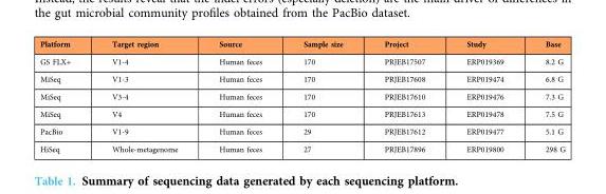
<table><thead><tr><td>Platform</td><td>Target region</td><td>Source</td><td>Sample size</td><td>Project</td><td>Study</td><td>Base</td></tr></thead><tbody><tr><td>GS FLX+</td><td>V1-4</td><td>Human feces</td><td>170</td><td>PRJEB17507</td><td>ERP019369</td><td>8.2 G</td></tr><tr><td>MiSeq</td><td>V1-3</td><td>Human feces</td><td>170</td><td>PRJEB17608</td><td>ERP019474</td><td>6.8 G</td></tr><tr><td>MiSeq</td><td>V3-4</td><td>Human feces</td><td>170</td><td>PRJEB17610</td><td>ERP019476</td><td>7.3 G</td></tr><tr><td>MiSeq</td><td>V4</td><td>Human feces</td><td>170</td><td>PRJEB17613</td><td>ERP019478</td><td>7.5 G</td></tr><tr><td>PacBio</td><td>V1-9</td><td>Human feces</td><td>29</td><td>PRJEB17612</td><td>ERP019477</td><td>5.1 G</td></tr><tr><td>HiSeq</td><td>Whole-metagenome</td><td>Human feces</td><td>27</td><td>PRJEB17896</td><td>ERP019800</td><td>298 G</td></tr></tbody></table>